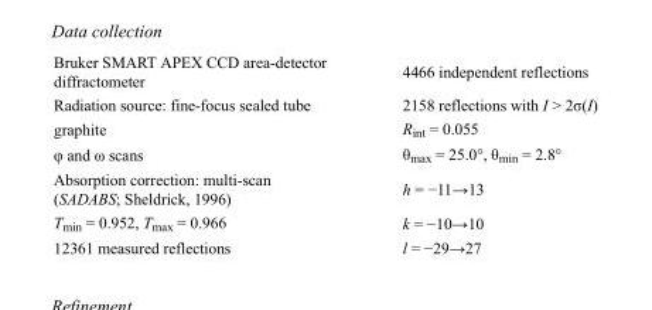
<table><tbody><tr><td>Bruker SMART APEX CCD area-detector diffractometer</td><td>4466 independent reflections</td></tr><tr><td>Radiation source: fine-focus sealed tube</td><td>2158 reflections with I &gt; 2σ(I)</td></tr><tr><td>graphite</td><td>R<sub>int</sub> = 0.055</td></tr><tr><td>φ and ω scans</td><td>θ<sub>max</sub> = 25.0°, θ<sub>min</sub> = 2.8°</td></tr><tr><td>Absorption correction: multi-scan (SADABS; Sheldrick, 1996)</td><td>h = −11→13</td></tr><tr><td>T<sub>min</sub> = 0.952, T<sub>max</sub> = 0.966</td><td>k = −10→10</td></tr><tr><td>12361 measured reflections</td><td>l = −29→27</td></tr></tbody></table>